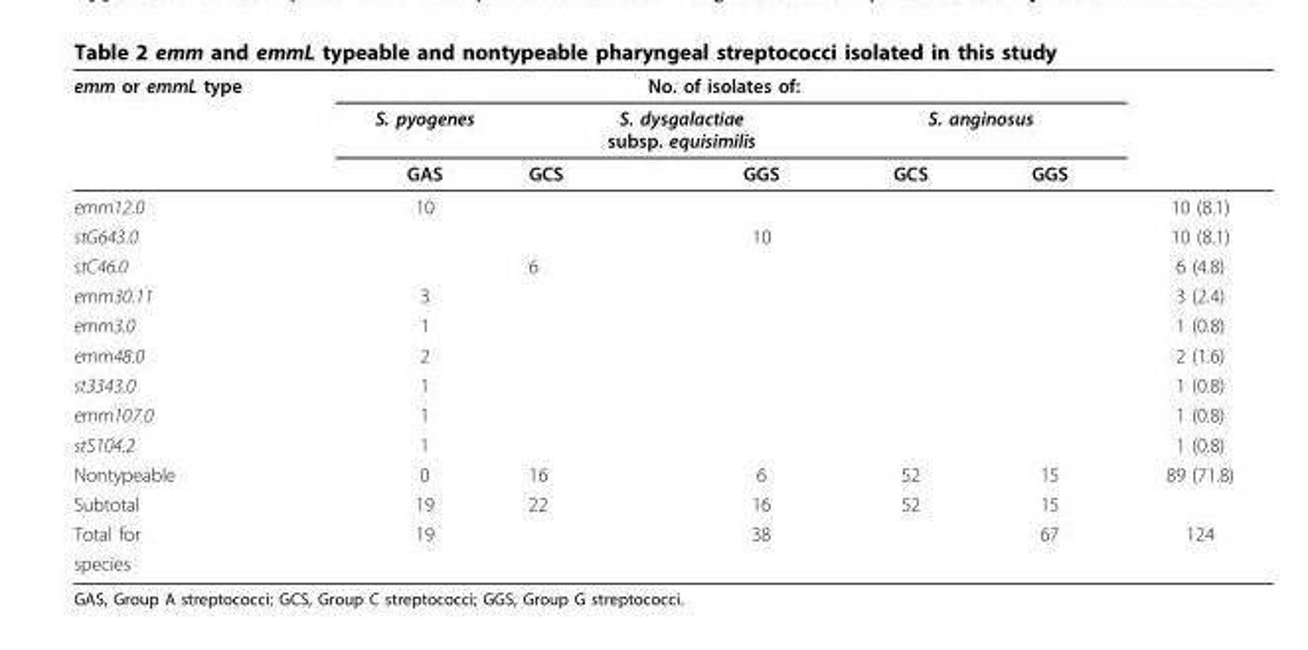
<table><thead><tr><td rowspan="3">emm or emmL type</td><td colspan="5">No. of isolates of:</td><td rowspan="3"></td></tr><tr><td rowspan="2">S. pyogenes GAS</td><td colspan="2">S. dysgalactiae subsp. equisimilis</td><td colspan="2">S. anginosus</td></tr><tr><td>GCS</td><td>GGS</td><td>GCS</td><td>GGS</td></tr></thead><tbody><tr><td>emm12.0</td><td>10</td><td></td><td></td><td></td><td></td><td>10 (8.1)</td></tr><tr><td>stG643.0</td><td></td><td></td><td>10</td><td></td><td></td><td>10 (8.1)</td></tr><tr><td>stC46.0</td><td></td><td>6</td><td></td><td></td><td></td><td>6 (4.8)</td></tr><tr><td>emm30.11</td><td>3</td><td></td><td></td><td></td><td></td><td>3 (2.4)</td></tr><tr><td>emm3.0</td><td>1</td><td></td><td></td><td></td><td></td><td>1 (0.8)</td></tr><tr><td>emm48.0</td><td>2</td><td></td><td></td><td></td><td></td><td>2 (1.6)</td></tr><tr><td>st3343.0</td><td>1</td><td></td><td></td><td></td><td></td><td>1 (0.8)</td></tr><tr><td>emm107.0</td><td>1</td><td></td><td></td><td></td><td></td><td>1 (0.8)</td></tr><tr><td>stS104.2</td><td>1</td><td></td><td></td><td></td><td></td><td>1 (0.8)</td></tr><tr><td>Nontypeable</td><td>0</td><td>16</td><td>6</td><td>52</td><td>15</td><td>89 (71.8)</td></tr><tr><td>Subtotal</td><td>19</td><td>22</td><td>16</td><td>52</td><td>15</td><td></td></tr><tr><td>Total for</td><td>19</td><td></td><td>38</td><td></td><td>67</td><td>124</td></tr><tr><td>species</td><td></td><td></td><td></td><td></td><td></td><td></td></tr></tbody></table>